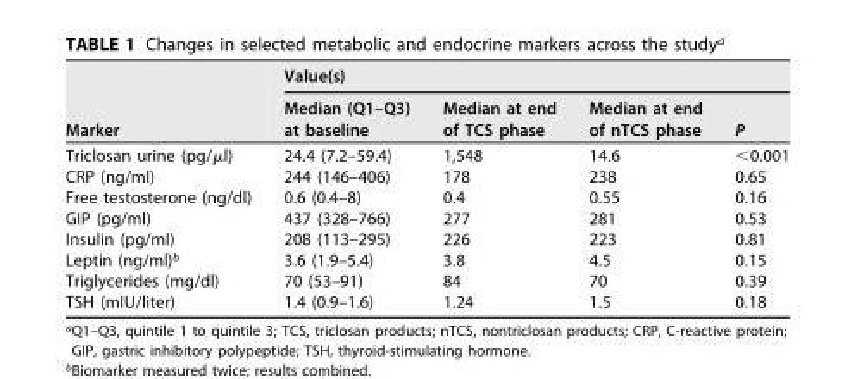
<table><thead><tr><td rowspan="2">Marker</td><td colspan="4">Value(s)</td></tr><tr><td>Median (Q1–Q3) at baseline</td><td>Median at end of TCS phase</td><td>Median at end of nTCS phase</td><td>P</td></tr></thead><tbody><tr><td>Triclosan urine (pg/µl)</td><td>24.4 (7.2–59.4)</td><td>1,548</td><td>14.6</td><td>&lt;0.001</td></tr><tr><td>CRP (ng/ml)</td><td>244 (146–406)</td><td>178</td><td>238</td><td>0.65</td></tr><tr><td>Free testosterone (ng/dl)</td><td>0.6 (0.4–8)</td><td>0.4</td><td>0.55</td><td>0.16</td></tr><tr><td>GIP (pg/ml)</td><td>437 (328–766)</td><td>277</td><td>281</td><td>0.53</td></tr><tr><td>Insulin (pg/ml)</td><td>208 (113–295)</td><td>226</td><td>223</td><td>0.81</td></tr><tr><td>Leptin (ng/ml)<sup>b</sup></td><td>3.6 (1.9–5.4)</td><td>3.8</td><td>4.5</td><td>0.15</td></tr><tr><td>Triglycerides (mg/dl)</td><td>70 (53–91)</td><td>84</td><td>70</td><td>0.39</td></tr><tr><td>TSH (mIU/liter)</td><td>1.4 (0.9–1.6)</td><td>1.24</td><td>1.5</td><td>0.18</td></tr></tbody></table>